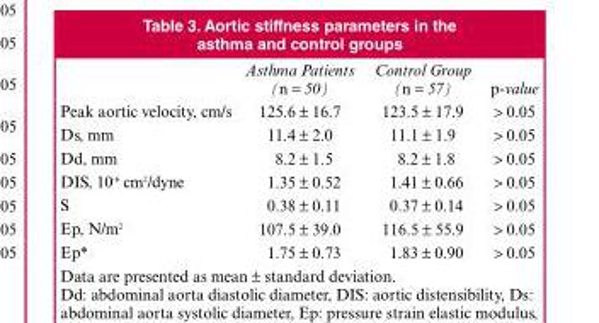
<table><thead><tr><td></td><td>Asthma Patients (n = 50)</td><td>Control Group (n = 57)</td><td>p-value</td></tr></thead><tbody><tr><td>Peak aortic velocity, cm/s</td><td>125.6 ± 16.7</td><td>123.5 ± 17.9</td><td>&gt; 0.05</td></tr><tr><td>Ds, mm</td><td>11.4 ± 2.0</td><td>11.1 ± 1.9</td><td>&gt; 0.05</td></tr><tr><td>Dd, mm</td><td>8.2 ± 1.5</td><td>8.2 ± 1.8</td><td>&gt; 0.05</td></tr><tr><td>DIS, 10<sup>-6</sup> cm<sup>2</sup>/dyne</td><td>1.35 ± 0.52</td><td>1.41 ± 0.66</td><td>&gt; 0.05</td></tr><tr><td>S</td><td>0.38 ± 0.11</td><td>0.37 ± 0.14</td><td>&gt; 0.05</td></tr><tr><td>Ep, N/m<sup>2</sup></td><td>107.5 ± 39.0</td><td>116.5 ± 55.9</td><td>&gt; 0.05</td></tr><tr><td>Ep*</td><td>1.75 ± 0.73</td><td>1.83 ± 0.90</td><td>&gt; 0.05</td></tr></tbody></table>